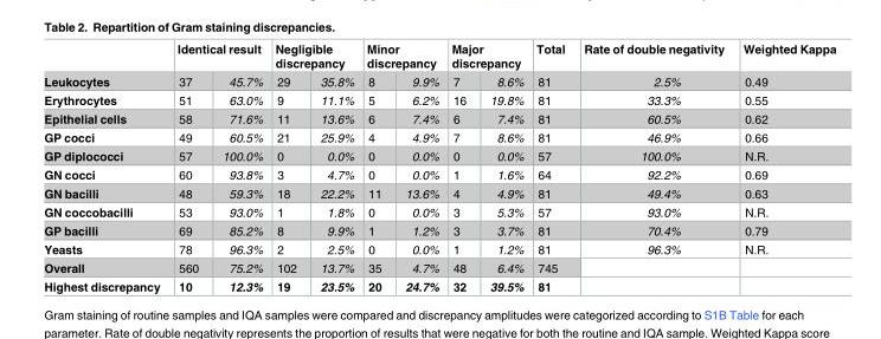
<table><thead><tr><td rowspan="2">Leukocytes</td><td colspan="2">Identical result</td><td colspan="2">Negligible discrepancy</td><td colspan="2">Minor discrepancy</td><td colspan="2">Major discrepancy</td><td rowspan="2">Total 81</td><td rowspan="2">Rate of double negativity 2.5%</td><td rowspan="2">Weighted Kappa 0.49</td></tr><tr><td>37</td><td>45.7%</td><td>29</td><td>35.8%</td><td>8</td><td>9.9%</td><td>7</td><td>8.6%</td></tr></thead><tbody><tr><td>Erythrocytes</td><td>51</td><td>63.0%</td><td>9</td><td>11.1%</td><td>5</td><td>6.2%</td><td>16</td><td>19.8%</td><td>81</td><td>33.3%</td><td>0.55</td></tr><tr><td>Epithelial cells</td><td>58</td><td>71.6%</td><td>11</td><td>13.6%</td><td>6</td><td>7.4%</td><td>6</td><td>7.4%</td><td>81</td><td>60.5%</td><td>0.62</td></tr><tr><td>GP cocci</td><td>49</td><td>60.5%</td><td>21</td><td>25.9%</td><td>4</td><td>4.9%</td><td>7</td><td>8.6%</td><td>81</td><td>46.9%</td><td>0.66</td></tr><tr><td>GP diplococci</td><td>57</td><td>100.0%</td><td>0</td><td>0.0%</td><td>0</td><td>0.0%</td><td>0</td><td>0.0%</td><td>57</td><td>100.0%</td><td>N.R.</td></tr><tr><td>GN cocci</td><td>60</td><td>93.8%</td><td>3</td><td>4.7%</td><td>0</td><td>0.0%</td><td>1</td><td>1.6%</td><td>64</td><td>92.2%</td><td>0.69</td></tr><tr><td>GN bacilli</td><td>48</td><td>59.3%</td><td>18</td><td>22.2%</td><td>11</td><td>13.6%</td><td>4</td><td>4.9%</td><td>81</td><td>49.4%</td><td>0.63</td></tr><tr><td>GN coccobacilli</td><td>53</td><td>93.0%</td><td>1</td><td>1.8%</td><td>0</td><td>0.0%</td><td>3</td><td>5.3%</td><td>57</td><td>93.0%</td><td>N.R.</td></tr><tr><td>GP bacilli</td><td>69</td><td>85.2%</td><td>8</td><td>9.9%</td><td>1</td><td>1.2%</td><td>3</td><td>3.7%</td><td>81</td><td>70.4%</td><td>0.79</td></tr><tr><td>Yeasts</td><td>78</td><td>96.3%</td><td>2</td><td>2.5%</td><td>0</td><td>0.0%</td><td>1</td><td>1.2%</td><td>81</td><td>96.3%</td><td>N.R.</td></tr><tr><td>Overall</td><td>560</td><td>75.2%</td><td>102</td><td>13.7%</td><td>35</td><td>4.7%</td><td>48</td><td>6.4%</td><td>745</td><td></td><td></td></tr><tr><td>Highest discrepancy</td><td>10</td><td>12.3%</td><td>19</td><td>23.5%</td><td>20</td><td>24.7%</td><td>32</td><td>39.5%</td><td>81</td><td></td><td></td></tr></tbody></table>